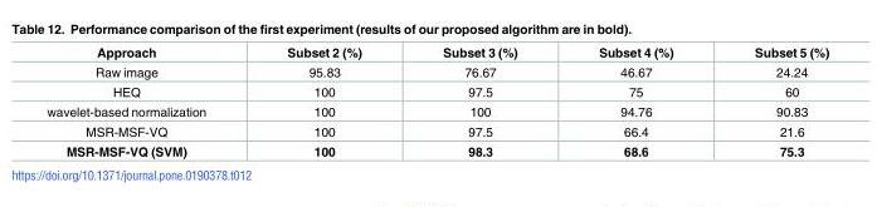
<table><thead><tr><td>Approach</td><td>Subset 2 (%)</td><td>Subset 3 (%)</td><td>Subset 4 (%)</td><td>Subset 5 (%)</td></tr></thead><tbody><tr><td>Raw image</td><td>95.83</td><td>76.67</td><td>46.67</td><td>24.24</td></tr><tr><td>HEQ</td><td>100</td><td>97.5</td><td>75</td><td>60</td></tr><tr><td>wavelet-based normalization</td><td>100</td><td>100</td><td>94.76</td><td>90.83</td></tr><tr><td>MSR-MSF-VQ</td><td>100</td><td>97.5</td><td>66.4</td><td>21.6</td></tr><tr><td>MSR-MSF-VQ (SVM)</td><td>100</td><td>98.3</td><td>68.6</td><td>75.3</td></tr></tbody></table>